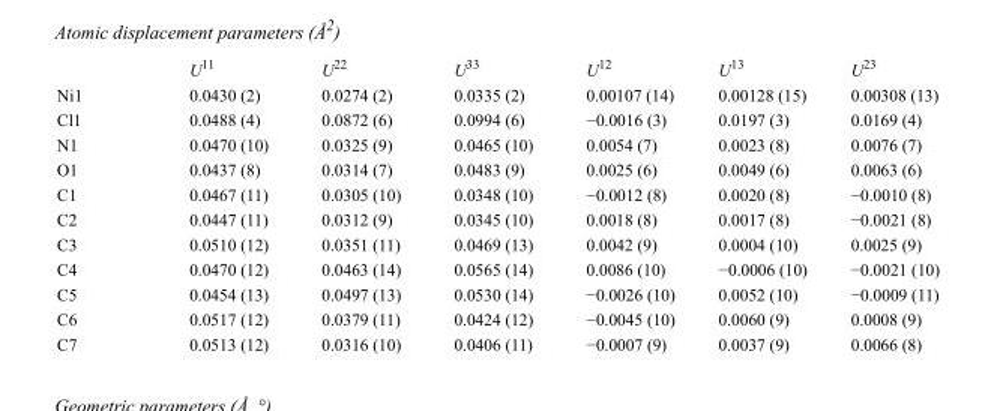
<table><thead><tr><td></td><td>U<sup>11</sup></td><td>U<sup>22</sup></td><td>U<sup>33</sup></td><td>U<sup>12</sup></td><td>U<sup>13</sup></td><td>U<sup>23</sup></td></tr></thead><tbody><tr><td>Ni1</td><td>0.0430 (2)</td><td>0.0274 (2)</td><td>0.0335 (2)</td><td>0.00107 (14)</td><td>0.00128 (15)</td><td>0.00308 (13)</td></tr><tr><td>Cl1</td><td>0.0488 (4)</td><td>0.0872 (6)</td><td>0.0994 (6)</td><td>−0.0016 (3)</td><td>0.0197 (3)</td><td>0.0169 (4)</td></tr><tr><td>N1</td><td>0.0470 (10)</td><td>0.0325 (9)</td><td>0.0465 (10)</td><td>0.0054 (7)</td><td>0.0023 (8)</td><td>0.0076 (7)</td></tr><tr><td>O1</td><td>0.0437 (8)</td><td>0.0314 (7)</td><td>0.0483 (9)</td><td>0.0025 (6)</td><td>0.0049 (6)</td><td>0.0063 (6)</td></tr><tr><td>C1</td><td>0.0467 (11)</td><td>0.0305 (10)</td><td>0.0348 (10)</td><td>−0.0012 (8)</td><td>0.0020 (8)</td><td>−0.0010 (8)</td></tr><tr><td>C2</td><td>0.0447 (11)</td><td>0.0312 (9)</td><td>0.0345 (10)</td><td>0.0018 (8)</td><td>0.0017 (8)</td><td>−0.0021 (8)</td></tr><tr><td>C3</td><td>0.0510 (12)</td><td>0.0351 (11)</td><td>0.0469 (13)</td><td>0.0042 (9)</td><td>0.0004 (10)</td><td>0.0025 (9)</td></tr><tr><td>C4</td><td>0.0470 (12)</td><td>0.0463 (14)</td><td>0.0565 (14)</td><td>0.0086 (10)</td><td>−0.0006 (10)</td><td>−0.0021 (10)</td></tr><tr><td>C5</td><td>0.0454 (13)</td><td>0.0497 (13)</td><td>0.0530 (14)</td><td>−0.0026 (10)</td><td>0.0052 (10)</td><td>−0.0009 (11)</td></tr><tr><td>C6</td><td>0.0517 (12)</td><td>0.0379 (11)</td><td>0.0424 (12)</td><td>−0.0045 (10)</td><td>0.0060 (9)</td><td>0.0008 (9)</td></tr><tr><td>C7</td><td>0.0513 (12)</td><td>0.0316 (10)</td><td>0.0406 (11)</td><td>−0.0007 (9)</td><td>0.0037 (9)</td><td>0.0066 (8)</td></tr></tbody></table>